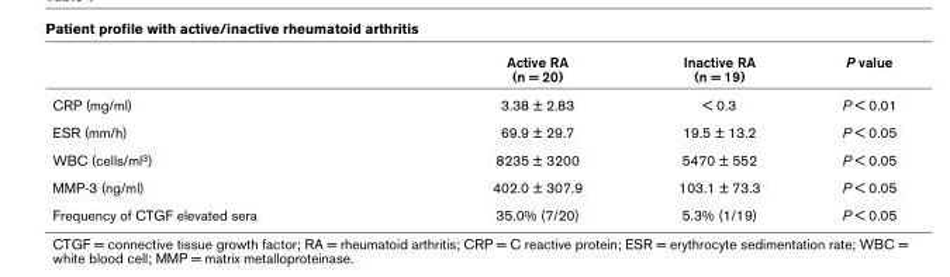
<table><thead><tr><td></td><td>Active RA (n = 20)</td><td>Inactive RA (n = 19)</td><td>P value</td></tr></thead><tbody><tr><td>CRP (mg/ml)</td><td>3.38 ± 2.83</td><td>&lt; 0.3</td><td>P &lt; 0.01</td></tr><tr><td>ESR (mm/h)</td><td>69.9 ± 29.7</td><td>19.5 ± 13.2</td><td>P &lt; 0.05</td></tr><tr><td>WBC (cells/ml<sup>3</sup>)</td><td>8235 ± 3200</td><td>5470 ± 552</td><td>P &lt; 0.05</td></tr><tr><td>MMP-3 (ng/ml)</td><td>402.0 ± 307.9</td><td>103.1 ± 73.3</td><td>P &lt; 0.05</td></tr><tr><td>Frequency of CTGF elevated sera</td><td>35.0% (7/20)</td><td>5.3% (1/19)</td><td>P &lt; 0.05</td></tr></tbody></table>